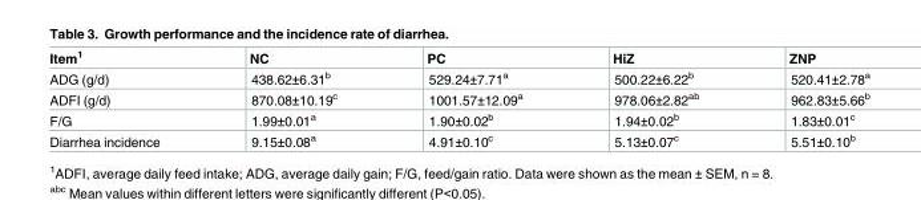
<table><thead><tr><td>Item<sup>1</sup></td><td>NC</td><td>PC</td><td>HiZ</td><td>ZNP</td></tr></thead><tbody><tr><td>ADG (g/d)</td><td>438.62±6.31<sup>b</sup></td><td>529.24±7.71<sup>a</sup></td><td>500.22±6.22<sup>b</sup></td><td>520.41±2.78<sup>a</sup></td></tr><tr><td>ADFI (g/d)</td><td>870.08±10.19<sup>c</sup></td><td>1001.57±12.09<sup>a</sup></td><td>978.06±2.82<sup>ab</sup></td><td>962.83±5.66<sup>b</sup></td></tr><tr><td>F/G</td><td>1.99±0.01<sup>a</sup></td><td>1.90±0.02<sup>b</sup></td><td>1.94±0.02<sup>b</sup></td><td>1.83±0.01<sup>c</sup></td></tr><tr><td>Diarrhea incidence</td><td>9.15±0.08<sup>a</sup></td><td>4.91±0.10<sup>c</sup></td><td>5.13±0.07<sup>c</sup></td><td>5.51±0.10<sup>b</sup></td></tr></tbody></table>